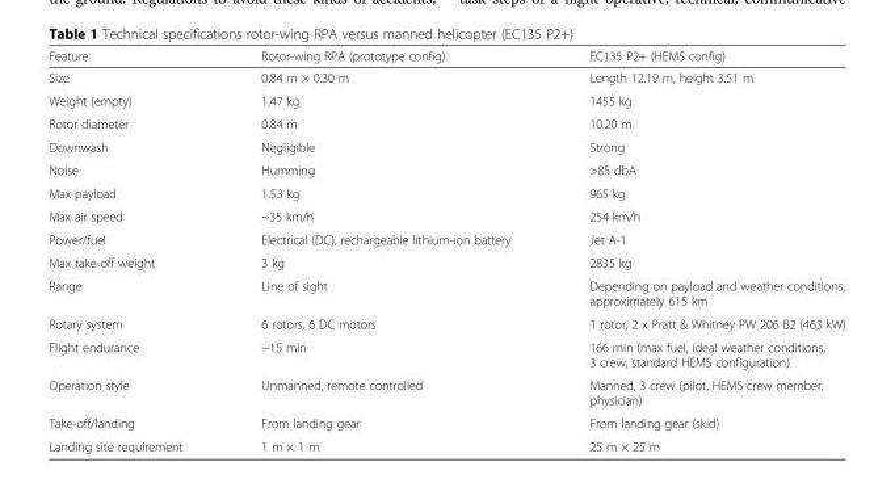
<table><thead><tr><td>Feature</td><td>Rotor-wing RPA (prototype config)</td><td>EC135 P2+ (HEMS config)</td></tr></thead><tbody><tr><td>Size</td><td>0.84 m × 0.30 m</td><td>Length 12.19 m, height 3.51 m</td></tr><tr><td>Weight (empty)</td><td>1.47 kg</td><td>1455 kg</td></tr><tr><td>Rotor diameter</td><td>0.84 m</td><td>10.20 m</td></tr><tr><td>Downwash</td><td>Negligible</td><td>Strong</td></tr><tr><td>Noise</td><td>Humming</td><td>&gt;85 dbA</td></tr><tr><td>Max payload</td><td>1.53 kg</td><td>965 kg</td></tr><tr><td>Max air speed</td><td>~35 km/h</td><td>254 km/h</td></tr><tr><td>Power/fuel</td><td>Electrical (DC), rechargeable lithium-ion battery</td><td>Jet A-1</td></tr><tr><td>Max take-off weight</td><td>3 kg</td><td>2835 kg</td></tr><tr><td>Range</td><td>Line of sight</td><td>Depending on payload and weather conditions, approximately 615 km</td></tr><tr><td>Rotary system</td><td>6 rotors, 6 DC motors</td><td>1 rotor, 2 x Pratt &amp; Whitney PW 206 B2 (463 kW)</td></tr><tr><td>Flight endurance</td><td>~15 min</td><td>166 min (max fuel, ideal weather conditions, 3 crew, standard HEMS configuration)</td></tr><tr><td>Operation style</td><td>Unmanned, remote controlled</td><td>Manned, 3 crew (pilot, HEMS crew member, physician)</td></tr><tr><td>Take-off/landing</td><td>From landing gear</td><td>From landing gear (skid)</td></tr><tr><td>Landing site requirement</td><td>1 m × 1 m</td><td>25 m × 25 m</td></tr></tbody></table>